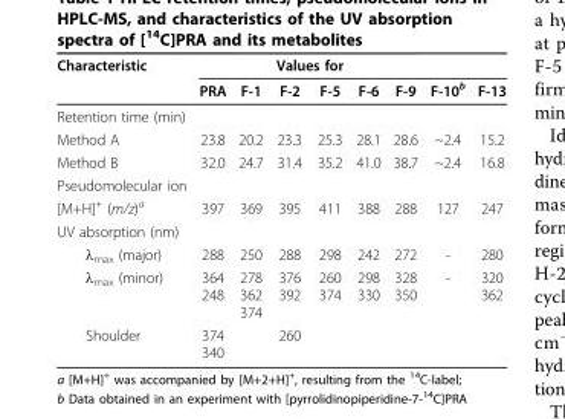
<table><thead><tr><td rowspan="2">Characteristic</td><td rowspan="2">PRA</td><td rowspan="2">F-1</td><td colspan="2">Values for</td><td rowspan="2">F-6</td><td rowspan="2">F-9</td><td rowspan="2">F-10<sup>b</sup></td><td rowspan="2">F-13</td></tr><tr><td>F-2</td><td>F-5</td></tr></thead><tbody><tr><td colspan="9">Retention time (min)</td></tr><tr><td>Method A</td><td>23.8</td><td>20.2</td><td>23.3</td><td>25.3</td><td>28.1</td><td>28.6</td><td>~2.4</td><td>15.2</td></tr><tr><td>Method B</td><td>32.0</td><td>24.7</td><td>31.4</td><td>35.2</td><td>41.0</td><td>38.7</td><td>~2.4</td><td>16.8</td></tr><tr><td colspan="9">Pseudomolecular ion</td></tr><tr><td>[M+H]<sup>+</sup> (m/z)<sup>a</sup></td><td>397</td><td>369</td><td>395</td><td>411</td><td>388</td><td>288</td><td>127</td><td>247</td></tr><tr><td colspan="9">UV absorption (nm)</td></tr><tr><td>λ<sub>max</sub> (major)</td><td>288</td><td>250</td><td>288</td><td>298</td><td>242</td><td>272</td><td>-</td><td>280</td></tr><tr><td>λ<sub>max</sub> (minor)</td><td>364 248</td><td>278 362 374</td><td>376 392</td><td>260 374</td><td>298 330</td><td>328 350</td><td>-</td><td>320 362</td></tr><tr><td>Shoulder</td><td>374 340</td><td></td><td>260</td><td></td><td></td><td></td><td></td><td></td></tr></tbody></table>